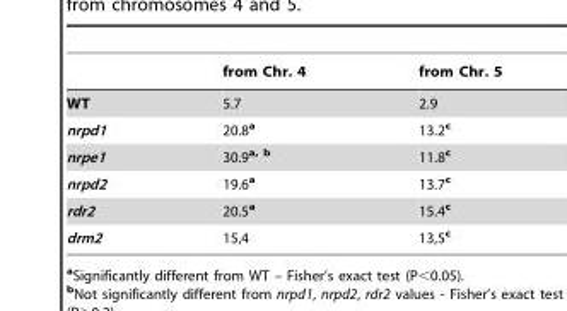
<table><thead><tr><td></td><td>from Chr. 4</td><td>from Chr. 5</td></tr></thead><tbody><tr><td>WT</td><td>5.7</td><td>2.9</td></tr><tr><td>nrpd1</td><td>20.8<sup>a</sup></td><td>13.2<sup>c</sup></td></tr><tr><td>nrpe1</td><td>30.9<sup>a,</sup> b</td><td>11.8<sup>c</sup></td></tr><tr><td>nrpd2</td><td>19.6<sup>a</sup></td><td>13.7<sup>c</sup></td></tr><tr><td>rdr2</td><td>20.5<sup>a</sup></td><td>15.4<sup>c</sup></td></tr><tr><td>drm2</td><td>15,4</td><td>13,5<sup>c</sup></td></tr></tbody></table>